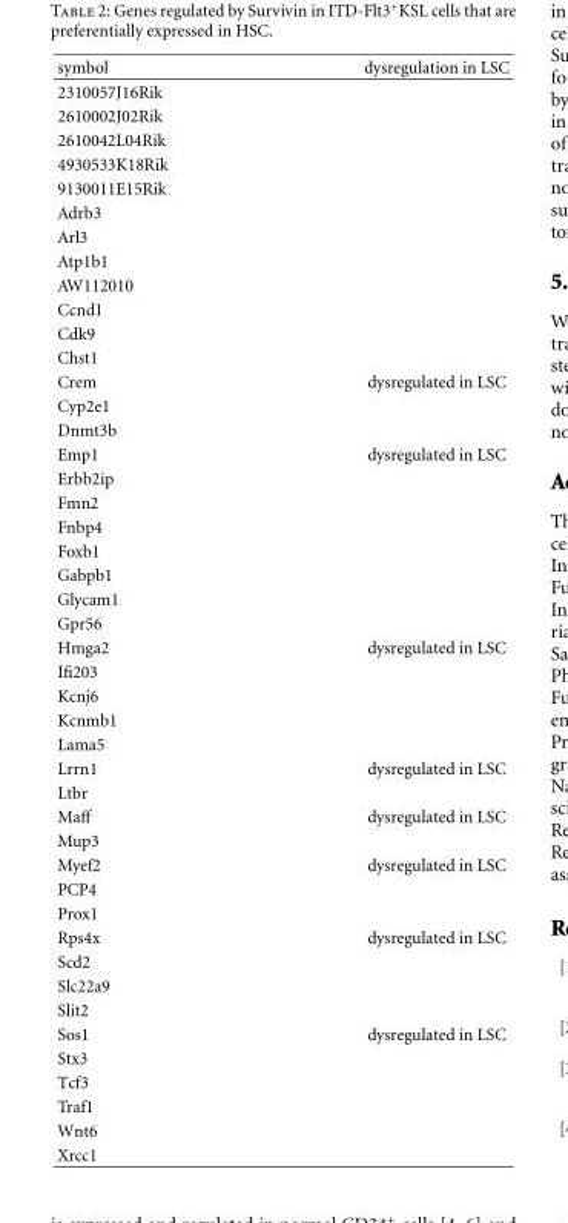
<table><thead><tr><td>symbol</td><td>dysregulation in LSC</td></tr></thead><tbody><tr><td colspan="2">2310057J16Rik</td></tr><tr><td colspan="2">2610002J02Rik</td></tr><tr><td colspan="2">2610042L04Rik</td></tr><tr><td colspan="2">4930533K18Rik</td></tr><tr><td colspan="2">9130011E15Rik</td></tr><tr><td colspan="2">Adrb3</td></tr><tr><td colspan="2">Arl3</td></tr><tr><td colspan="2">Atp1b1</td></tr><tr><td colspan="2">AW112010</td></tr><tr><td colspan="2">Ccnd1</td></tr><tr><td colspan="2">Cdk9</td></tr><tr><td colspan="2">Chst1</td></tr><tr><td>Crem</td><td>dysregulated in LSC</td></tr><tr><td colspan="2">Cyp2e1</td></tr><tr><td colspan="2">Dnmt3b</td></tr><tr><td>Emp1</td><td>dysregulated in LSC</td></tr><tr><td colspan="2">Erbb2ip</td></tr><tr><td colspan="2">Fmn2</td></tr><tr><td colspan="2">Fnbp4</td></tr><tr><td colspan="2">Foxb1</td></tr><tr><td colspan="2">Gabpb1</td></tr><tr><td colspan="2">Glycam1</td></tr><tr><td colspan="2">Gpr56</td></tr><tr><td>Hmga2</td><td>dysregulated in LSC</td></tr><tr><td colspan="2">Ifi203</td></tr><tr><td colspan="2">Kcnj6</td></tr><tr><td colspan="2">Kcnmb1</td></tr><tr><td colspan="2">Lama5</td></tr><tr><td>Lrrn1</td><td>dysregulated in LSC</td></tr><tr><td colspan="2">Ltbr</td></tr><tr><td>Maff</td><td>dysregulated in LSC</td></tr><tr><td colspan="2">Mup3</td></tr><tr><td>Myef2</td><td>dysregulated in LSC</td></tr><tr><td colspan="2">PCP4</td></tr><tr><td colspan="2">Prox1</td></tr><tr><td>Rps4x</td><td>dysregulated in LSC</td></tr><tr><td colspan="2">Scd2</td></tr><tr><td colspan="2">Slc22a9</td></tr><tr><td colspan="2">Slit2</td></tr><tr><td>Sos1</td><td>dysregulated in LSC</td></tr><tr><td colspan="2">Stx3</td></tr><tr><td colspan="2">Tcf3</td></tr><tr><td colspan="2">Traf1</td></tr><tr><td colspan="2">Wnt6</td></tr><tr><td>Xrcc1</td><td></td></tr></tbody></table>